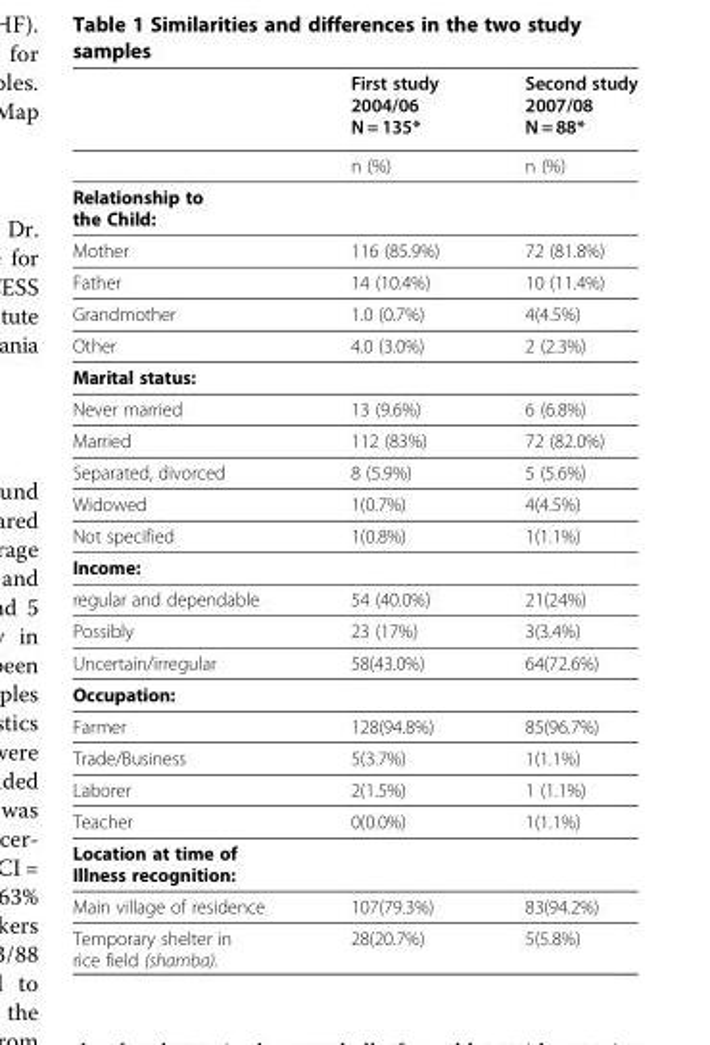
<table><thead><tr><td></td><td>First study 2004/06 N = 135*</td><td>Second study 2007/08 N = 88*</td></tr></thead><tbody><tr><td></td><td>n (%)</td><td>n (%)</td></tr><tr><td colspan="3">Relationship to the Child:</td></tr><tr><td>Mother</td><td>116 (85.9%)</td><td>72 (81.8%)</td></tr><tr><td>Father</td><td>14 (10.4%)</td><td>10 (11.4%)</td></tr><tr><td>Grandmother</td><td>1.0 (0.7%)</td><td>4(4.5%)</td></tr><tr><td>Other</td><td>4.0 (3.0%)</td><td>2 (2.3%)</td></tr><tr><td colspan="3">Marital status:</td></tr><tr><td>Never married</td><td>13 (9.6%)</td><td>6 (6.8%)</td></tr><tr><td>Married</td><td>112 (83%)</td><td>72 (82.0%)</td></tr><tr><td>Separated, divorced</td><td>8 (5.9%)</td><td>5 (5.6%)</td></tr><tr><td>Widowed</td><td>1(0.7%)</td><td>4(4.5%)</td></tr><tr><td>Not specified</td><td>1(0.8%)</td><td>1(1.1%)</td></tr><tr><td colspan="3">Income:</td></tr><tr><td>regular and dependable</td><td>54 (40.0%)</td><td>21(24%)</td></tr><tr><td>Possibly</td><td>23 (17%)</td><td>3(3.4%)</td></tr><tr><td>Uncertain/irregular</td><td>58(43.0%)</td><td>64(72.6%)</td></tr><tr><td colspan="3">Occupation:</td></tr><tr><td>Farmer</td><td>128(94.8%)</td><td>85(96.7%)</td></tr><tr><td>Trade/Business</td><td>5(3.7%)</td><td>1(1.1%)</td></tr><tr><td>Laborer</td><td>2(1.5%)</td><td>1 (1.1%)</td></tr><tr><td>Teacher</td><td>0(0.0%)</td><td>1(1.1%)</td></tr><tr><td colspan="3">Location at time of Illness recognition:</td></tr><tr><td>Main village of residence</td><td>107(79.3%)</td><td>83(94.2%)</td></tr><tr><td>Temporary shelter in rice field (shamba).</td><td>28(20.7%)</td><td>5(5.8%)</td></tr></tbody></table>